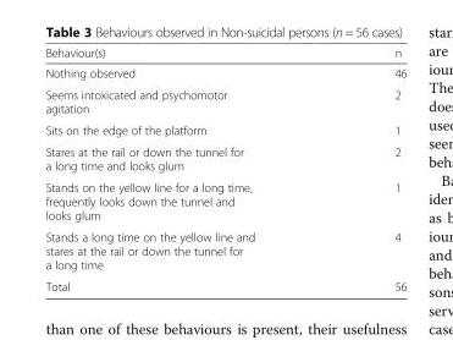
<table><thead><tr><td>Behaviour(s)</td><td>n</td></tr></thead><tbody><tr><td>Nothing observed</td><td>46</td></tr><tr><td>Seems intoxicated and psychomotor agitation</td><td>2</td></tr><tr><td>Sits on the edge of the platform</td><td>1</td></tr><tr><td>Stares at the rail or down the tunnel for a long time and looks glum</td><td>2</td></tr><tr><td>Stands on the yellow line for a long time, frequently looks down the tunnel and looks glum</td><td>1</td></tr><tr><td>Stands a long time on the yellow line and stares at the rail or down the tunnel for a long time</td><td>4</td></tr><tr><td>Total</td><td>56</td></tr></tbody></table>